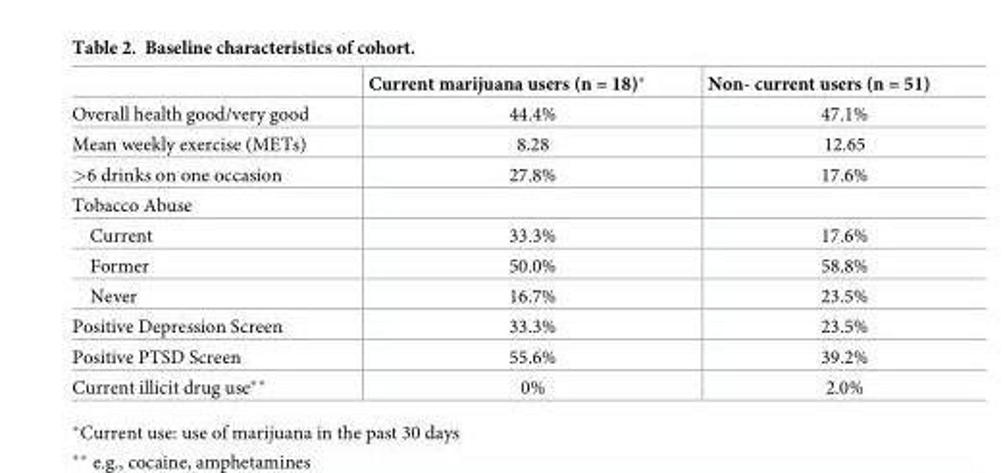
<table><thead><tr><td></td><td>Current marijuana users (n = 18)*</td><td>Non- current users (n = 51)</td></tr></thead><tbody><tr><td>Overall health good/very good</td><td>44.4%</td><td>47.1%</td></tr><tr><td>Mean weekly exercise (METs)</td><td>8.28</td><td>12.65</td></tr><tr><td>&gt;6 drinks on one occasion</td><td>27.8%</td><td>17.6%</td></tr><tr><td colspan="3">Tobacco Abuse</td></tr><tr><td>Current</td><td>33.3%</td><td>17.6%</td></tr><tr><td>Former</td><td>50.0%</td><td>58.8%</td></tr><tr><td>Never</td><td>16.7%</td><td>23.5%</td></tr><tr><td>Positive Depression Screen</td><td>33.3%</td><td>23.5%</td></tr><tr><td>Positive PTSD Screen</td><td>55.6%</td><td>39.2%</td></tr><tr><td>Current illicit drug use**</td><td>0%</td><td>2.0%</td></tr></tbody></table>